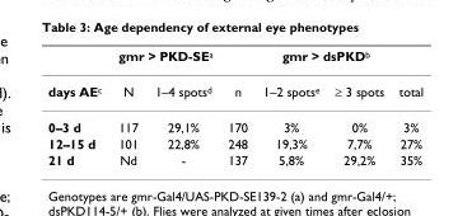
<table><thead><tr><td rowspan="2">days AE<sup>c</sup></td><td colspan="2">gmr &gt; PKD-SE<sup>a</sup></td><td colspan="4">gmr &gt; dsPKD<sup>b</sup></td></tr><tr><td>N</td><td>1–4 spots<sup>d</sup></td><td>n</td><td>1–2 spots<sup>e</sup></td><td>≥ 3 spots</td><td>total</td></tr></thead><tbody><tr><td>0–3 d</td><td>117</td><td>29,1%</td><td>170</td><td>3%</td><td>0%</td><td>3%</td></tr><tr><td>12–15 d</td><td>101</td><td>22,8%</td><td>248</td><td>19,3%</td><td>7,7%</td><td>27%</td></tr><tr><td>21 d</td><td>Nd</td><td>-</td><td>137</td><td>5,8%</td><td>29,2%</td><td>35%</td></tr></tbody></table>